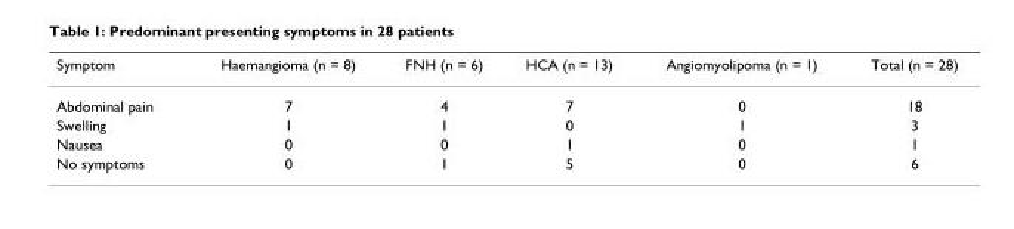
<table><thead><tr><td>Symptom</td><td>Haemangioma (n = 8)</td><td>FNH (n = 6)</td><td>HCA (n = 13)</td><td>Angiomyolipoma (n = 1)</td><td>Total (n = 28)</td></tr></thead><tbody><tr><td>Abdominal pain</td><td>7</td><td>4</td><td>7</td><td>0</td><td>18</td></tr><tr><td>Swelling</td><td>1</td><td>1</td><td>0</td><td>1</td><td>3</td></tr><tr><td>Nausea</td><td>0</td><td>0</td><td>1</td><td>0</td><td>1</td></tr><tr><td>No symptoms</td><td>0</td><td>1</td><td>5</td><td>0</td><td>6</td></tr></tbody></table>